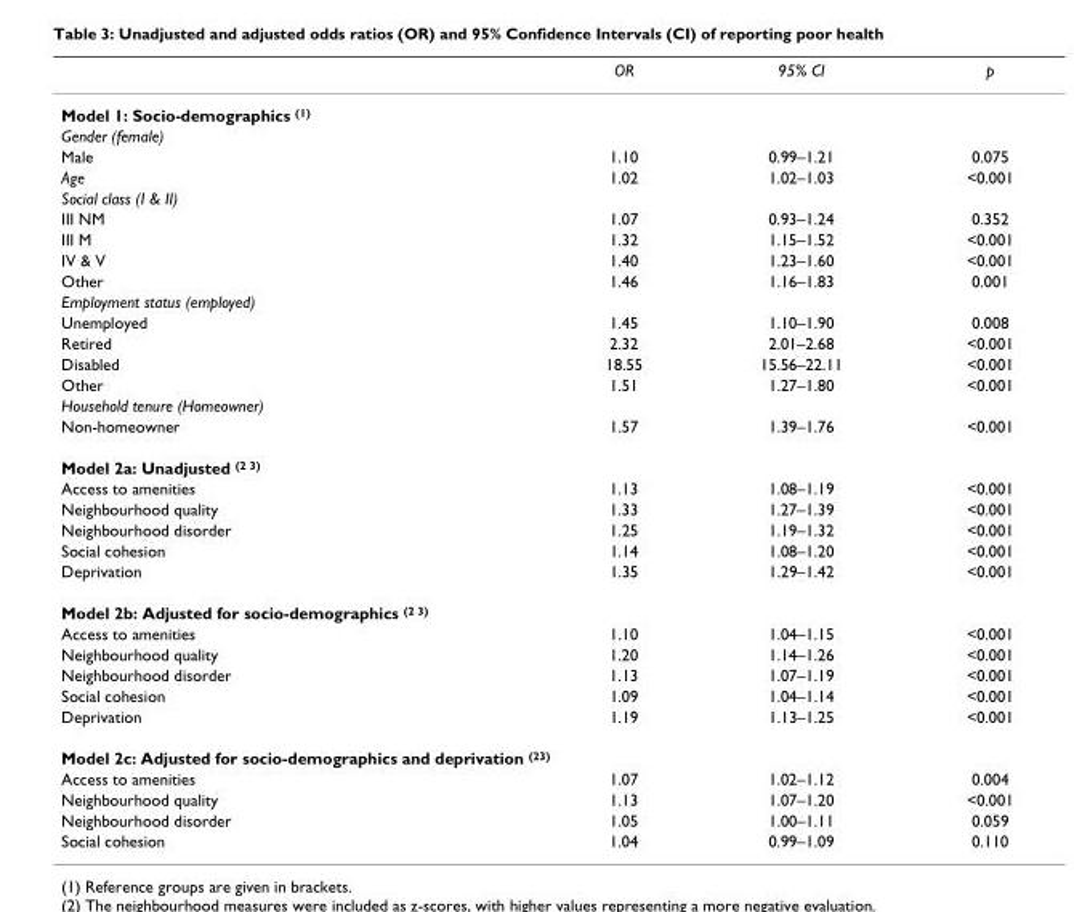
<table><thead><tr><td></td><td>OR</td><td>95% CI</td><td>p</td></tr></thead><tbody><tr><td colspan="4">Model 1: Socio-demographics <sup>(1)</sup></td></tr><tr><td colspan="4">Gender (female)</td></tr><tr><td>Male</td><td>1.10</td><td>0.99–1.21</td><td>0.075</td></tr><tr><td>Age</td><td>1.02</td><td>1.02–1.03</td><td>&lt;0.001</td></tr><tr><td colspan="4">Social class (I &amp; II)</td></tr><tr><td>III NM</td><td>1.07</td><td>0.93–1.24</td><td>0.352</td></tr><tr><td>III M</td><td>1.32</td><td>1.15–1.52</td><td>&lt;0.001</td></tr><tr><td>IV &amp; V</td><td>1.40</td><td>1.23–1.60</td><td>&lt;0.001</td></tr><tr><td>Other</td><td>1.46</td><td>1.16–1.83</td><td>0.001</td></tr><tr><td colspan="4">Employment status (employed)</td></tr><tr><td>Unemployed</td><td>1.45</td><td>1.10–1.90</td><td>0.008</td></tr><tr><td>Retired</td><td>2.32</td><td>2.01–2.68</td><td>&lt;0.001</td></tr><tr><td>Disabled</td><td>18.55</td><td>15.56–22.11</td><td>&lt;0.001</td></tr><tr><td>Other</td><td>1.51</td><td>1.27–1.80</td><td>&lt;0.001</td></tr><tr><td colspan="4">Household tenure (Homeowner)</td></tr><tr><td>Non-homeowner</td><td>1.57</td><td>1.39–1.76</td><td>&lt;0.001</td></tr><tr><td colspan="4">Model 2a: Unadjusted <sup>(2 3)</sup></td></tr><tr><td>Access to amenities</td><td>1.13</td><td>1.08–1.19</td><td>&lt;0.001</td></tr><tr><td>Neighbourhood quality</td><td>1.33</td><td>1.27–1.39</td><td>&lt;0.001</td></tr><tr><td>Neighbourhood disorder</td><td>1.25</td><td>1.19–1.32</td><td>&lt;0.001</td></tr><tr><td>Social cohesion</td><td>1.14</td><td>1.08–1.20</td><td>&lt;0.001</td></tr><tr><td>Deprivation</td><td>1.35</td><td>1.29–1.42</td><td>&lt;0.001</td></tr><tr><td colspan="4">Model 2b: Adjusted for socio-demographics <sup>(2 3)</sup></td></tr><tr><td>Access to amenities</td><td>1.10</td><td>1.04–1.15</td><td>&lt;0.001</td></tr><tr><td>Neighbourhood quality</td><td>1.20</td><td>1.14–1.26</td><td>&lt;0.001</td></tr><tr><td>Neighbourhood disorder</td><td>1.13</td><td>1.07–1.19</td><td>&lt;0.001</td></tr><tr><td>Social cohesion</td><td>1.09</td><td>1.04–1.14</td><td>&lt;0.001</td></tr><tr><td>Deprivation</td><td>1.19</td><td>1.13–1.25</td><td>&lt;0.001</td></tr><tr><td colspan="4">Model 2c: Adjusted for socio-demographics and deprivation <sup>(23)</sup></td></tr><tr><td>Access to amenities</td><td>1.07</td><td>1.02–1.12</td><td>0.004</td></tr><tr><td>Neighbourhood quality</td><td>1.13</td><td>1.07–1.20</td><td>&lt;0.001</td></tr><tr><td>Neighbourhood disorder</td><td>1.05</td><td>1.00–1.11</td><td>0.059</td></tr><tr><td>Social cohesion</td><td>1.04</td><td>0.99–1.09</td><td>0.110</td></tr></tbody></table>